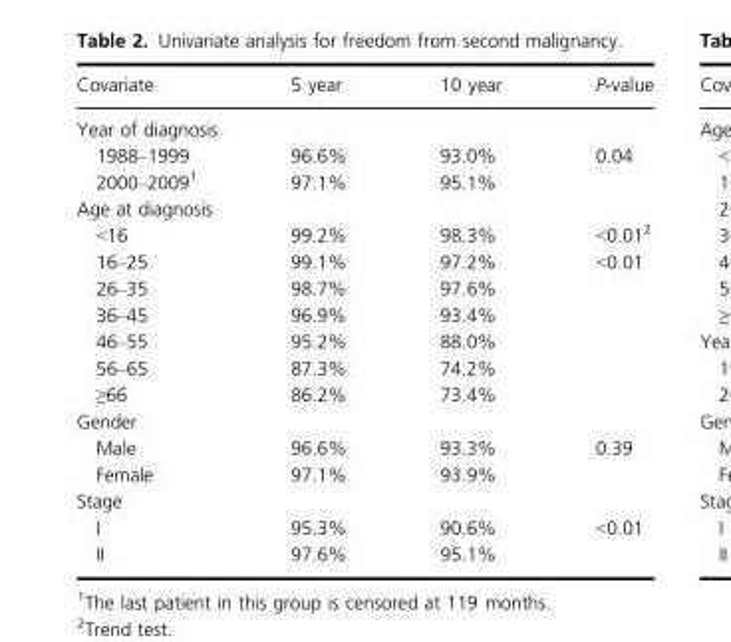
<table><thead><tr><td>Covariate</td><td>5 year</td><td>10 year</td><td>P-value</td></tr></thead><tbody><tr><td colspan="4">Year of diagnosis</td></tr><tr><td>1988–1999</td><td>96.6%</td><td>93.0%</td><td rowspan="2">0.04</td></tr><tr><td>2000–2009<sup>1</sup></td><td>97.1%</td><td>95.1%</td></tr><tr><td colspan="4">Age at diagnosis</td></tr><tr><td>&lt;16</td><td>99.2%</td><td>98.3%</td><td>&lt;0.01<sup>2</sup></td></tr><tr><td>16–25</td><td>99.1%</td><td>97.2%</td><td>&lt;0.01</td></tr><tr><td>26–35</td><td>98.7%</td><td>97.6%</td><td></td></tr><tr><td>36–45</td><td>96.9%</td><td>93.4%</td><td></td></tr><tr><td>46–55</td><td>95.2%</td><td>88.0%</td><td></td></tr><tr><td>56–65</td><td>87.3%</td><td>74.2%</td><td></td></tr><tr><td>≥66</td><td>86.2%</td><td>73.4%</td><td></td></tr><tr><td colspan="4">Gender</td></tr><tr><td>Male</td><td>96.6%</td><td>93.3%</td><td>0.39</td></tr><tr><td>Female</td><td>97.1%</td><td>93.9%</td><td></td></tr><tr><td colspan="4">Stage</td></tr><tr><td>I</td><td>95.3%</td><td>90.6%</td><td>&lt;0.01</td></tr><tr><td>II</td><td>97.6%</td><td>95.1%</td><td></td></tr></tbody></table>